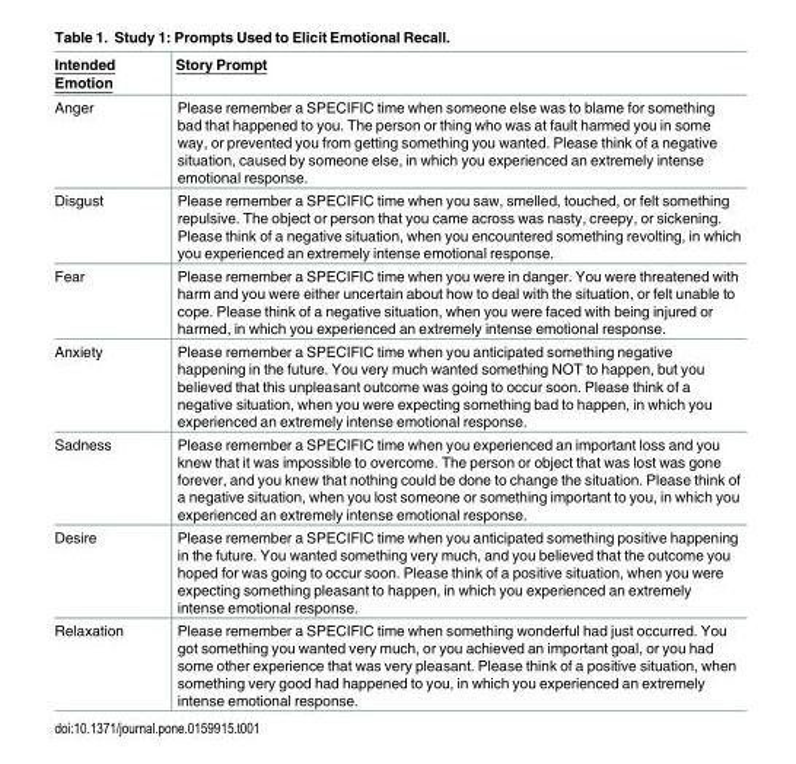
<table><thead><tr><td>Intended Emotion</td><td>Story Prompt</td></tr></thead><tbody><tr><td>Anger</td><td>Please remember a SPECIFIC time when someone else was to blame for something bad that happened to you. The person or thing who was at fault harmed you in some way, or prevented you from getting something you wanted. Please think of a negative situation, caused by someone else, in which you experienced an extremely intense emotional response.</td></tr><tr><td>Disgust</td><td>Please remember a SPECIFIC time when you saw, smelled, touched, or felt something repulsive. The object or person that you came across was nasty, creepy, or sickening. Please think of a negative situation, when you encountered something revolting, in which you experienced an extremely intense emotional response.</td></tr><tr><td>Fear</td><td>Please remember a SPECIFIC time when you were in danger. You were threatened with harm and you were either uncertain about how to deal with the situation, or felt unable to cope. Please think of a negative situation, when you were faced with being injured or harmed, in which you experienced an extremely intense emotional response.</td></tr><tr><td>Anxiety</td><td>Please remember a SPECIFIC time when you anticipated something negative happening in the future. You very much wanted something NOT to happen, but you believed that this unpleasant outcome was going to occur soon. Please think of a negative situation, when you were expecting something bad to happen, in which you experienced an extremely intense emotional response.</td></tr><tr><td>Sadness</td><td>Please remember a SPECIFIC time when you experienced an important loss and you knew that it was impossible to overcome. The person or object that was lost was gone forever, and you knew that nothing could be done to change the situation. Please think of a negative situation, when you lost someone or something important to you, in which you experienced an extremely intense emotional response.</td></tr><tr><td>Desire</td><td>Please remember a SPECIFIC time when you anticipated something positive happening in the future. You wanted something very much, and you believed that the outcome you hoped for was going to occur soon. Please think of a positive situation, when you were expecting something pleasant to happen, in which you experienced an extremely intense emotional response.</td></tr><tr><td>Relaxation</td><td>Please remember a SPECIFIC time when something wonderful had just occurred. You got something you wanted very much, or you achieved an important goal, or you had some other experience that was very pleasant. Please think of a positive situation, when something very good had happened to you, in which you experienced an extremely intense emotional response.</td></tr></tbody></table>